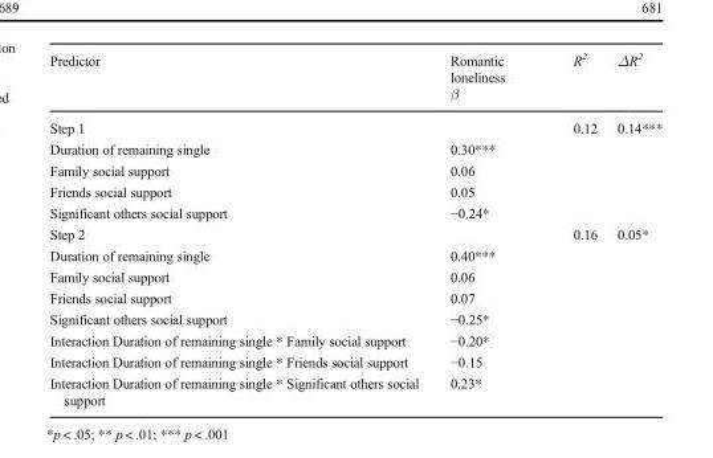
<table><thead><tr><td rowspan="2">Predictor</td><td rowspan="2">Romantic loneliness β</td><td rowspan="2">R<sup>2</sup></td><td rowspan="2">ΔR<sup>2</sup></td></tr><tr></tr></thead><tbody><tr><td>Step 1</td><td></td><td>0.12</td><td>0.14***</td></tr><tr><td>Duration of remaining single</td><td>0.30***</td><td></td><td></td></tr><tr><td>Family social support</td><td>0.06</td><td></td><td></td></tr><tr><td>Friends social support</td><td>0.05</td><td></td><td></td></tr><tr><td>Significant others social support</td><td>−0.24*</td><td></td><td></td></tr><tr><td>Step 2</td><td></td><td>0.16</td><td>0.05*</td></tr><tr><td>Duration of remaining single</td><td>0.40***</td><td></td><td></td></tr><tr><td>Family social support</td><td>0.06</td><td></td><td></td></tr><tr><td>Friends social support</td><td>0.07</td><td></td><td></td></tr><tr><td>Significant others social support</td><td>−0.25*</td><td></td><td></td></tr><tr><td>Interaction Duration of remaining single * Family social support</td><td>−0.20*</td><td></td><td></td></tr><tr><td>Interaction Duration of remaining single * Friends social support</td><td>−0.15</td><td></td><td></td></tr><tr><td>Interaction Duration of remaining single * Significant others social support</td><td>0.23*</td><td></td><td></td></tr></tbody></table>